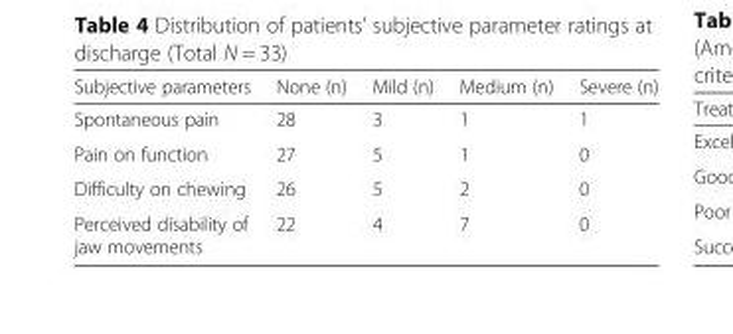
<table><thead><tr><td>Subjective parameters</td><td>None (n)</td><td>Mild (n)</td><td>Medium (n)</td><td>Severe (n)</td></tr></thead><tbody><tr><td>Spontaneous pain</td><td>28</td><td>3</td><td>1</td><td>1</td></tr><tr><td>Pain on function</td><td>27</td><td>5</td><td>1</td><td>0</td></tr><tr><td>Difficulty on chewing</td><td>26</td><td>5</td><td>2</td><td>0</td></tr><tr><td>Perceived disability of jaw movements</td><td>22</td><td>4</td><td>7</td><td>0</td></tr></tbody></table>